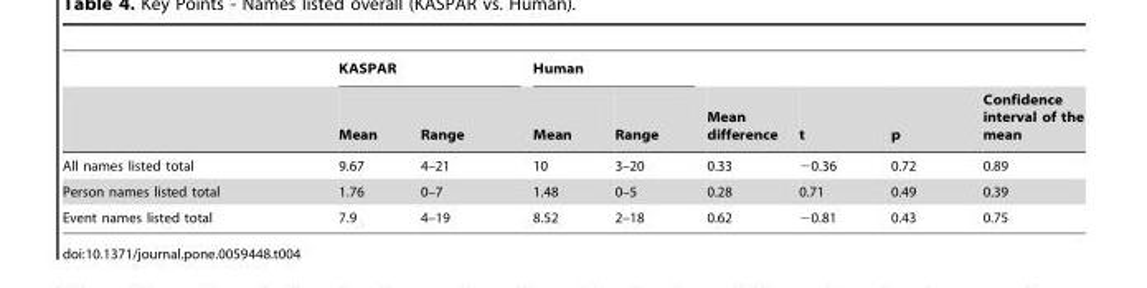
<table><thead><tr><td rowspan="2"></td><td colspan="2">KASPAR</td><td colspan="2">Human</td><td rowspan="2">Mean difference</td><td rowspan="2">t</td><td rowspan="2">p</td><td rowspan="2">Confidence interval of the mean</td></tr><tr><td>Mean</td><td>Range</td><td>Mean</td><td>Range</td></tr></thead><tbody><tr><td>All names listed total</td><td>9.67</td><td>4–21</td><td>10</td><td>3–20</td><td>0.33</td><td>−0.36</td><td>0.72</td><td>0.89</td></tr><tr><td>Person names listed total</td><td>1.76</td><td>0–7</td><td>1.48</td><td>0–5</td><td>0.28</td><td>0.71</td><td>0.49</td><td>0.39</td></tr><tr><td>Event names listed total</td><td>7.9</td><td>4–19</td><td>8.52</td><td>2–18</td><td>0.62</td><td>−0.81</td><td>0.43</td><td>0.75</td></tr></tbody></table>